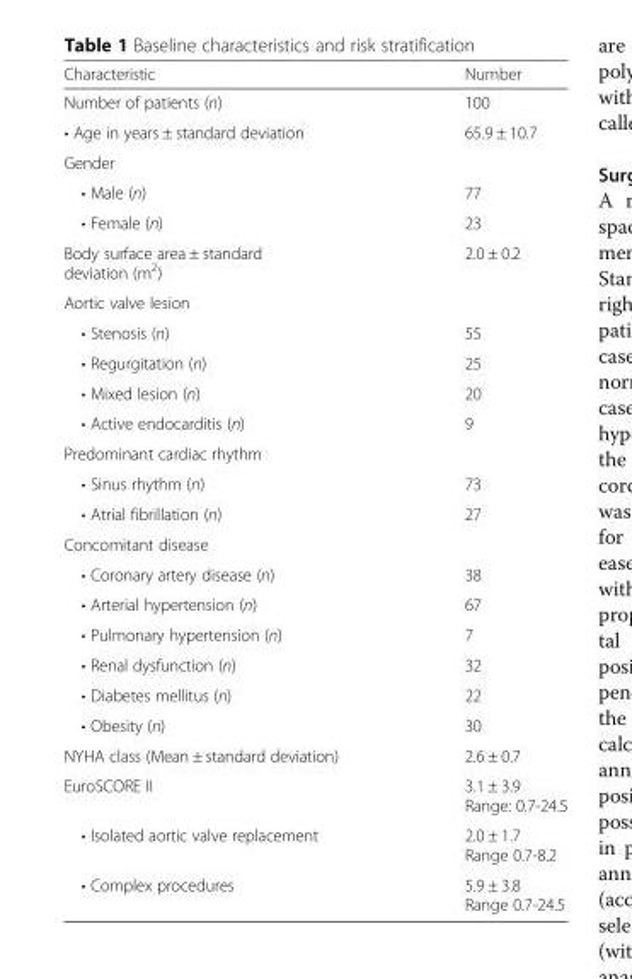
<table><thead><tr><td>Characteristic</td><td>Number</td></tr></thead><tbody><tr><td>Number of patients (n)</td><td>100</td></tr><tr><td>• Age in years ± standard deviation</td><td>65.9 ± 10.7</td></tr><tr><td colspan="2">Gender</td></tr><tr><td>• Male (n)</td><td>77</td></tr><tr><td>• Female (n)</td><td>23</td></tr><tr><td>Body surface area ± standard deviation (m<sup>2</sup>)</td><td>2.0 ± 0.2</td></tr><tr><td colspan="2">Aortic valve lesion</td></tr><tr><td>• Stenosis (n)</td><td>55</td></tr><tr><td>• Regurgitation (n)</td><td>25</td></tr><tr><td>• Mixed lesion (n)</td><td>20</td></tr><tr><td>• Active endocarditis (n)</td><td>9</td></tr><tr><td colspan="2">Predominant cardiac rhythm</td></tr><tr><td>• Sinus rhythm (n)</td><td>73</td></tr><tr><td>• Atrial fibrillation (n)</td><td>27</td></tr><tr><td colspan="2">Concomitant disease</td></tr><tr><td>• Coronary artery disease (n)</td><td>38</td></tr><tr><td>• Arterial hypertension (n)</td><td>67</td></tr><tr><td>• Pulmonary hypertension (n)</td><td>7</td></tr><tr><td>• Renal dysfunction (n)</td><td>32</td></tr><tr><td>• Diabetes mellitus (n)</td><td>22</td></tr><tr><td>• Obesity (n)</td><td>30</td></tr><tr><td>NYHA class (Mean ± standard deviation)</td><td>2.6 ± 0.7</td></tr><tr><td>EuroSCORE II</td><td>3.1 ± 3.9 Range: 0.7-24.5</td></tr><tr><td>• Isolated aortic valve replacement</td><td>2.0 ± 1.7 Range 0.7-8.2</td></tr><tr><td>• Complex procedures</td><td>5.9 ± 3.8 Range 0.7-24.5</td></tr></tbody></table>